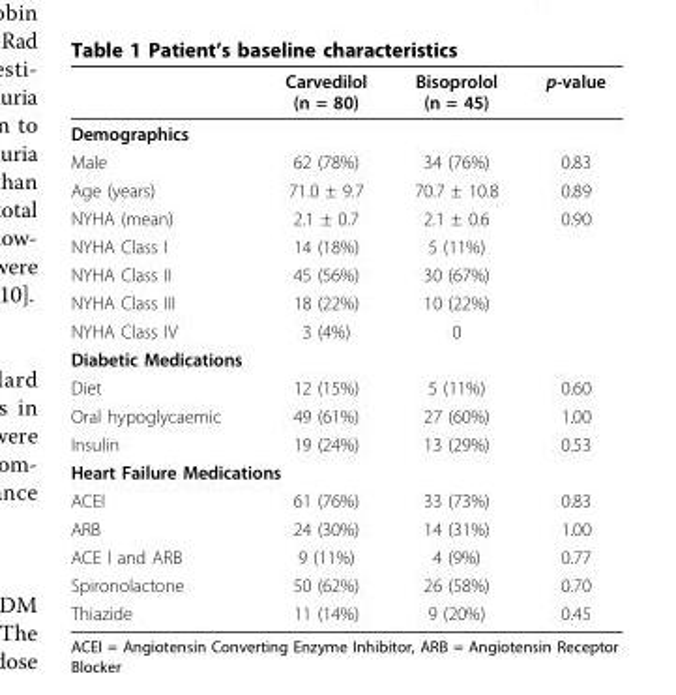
<table><thead><tr><td></td><td>Carvedilol (n = 80)</td><td>Bisoprolol (n = 45)</td><td>p-value</td></tr></thead><tbody><tr><td colspan="4">Demographics</td></tr><tr><td>Male</td><td>62 (78%)</td><td>34 (76%)</td><td>0.83</td></tr><tr><td>Age (years)</td><td>71.0 ± 9.7</td><td>70.7 ± 10.8</td><td>0.89</td></tr><tr><td>NYHA (mean)</td><td>2.1 ± 0.7</td><td>2.1 ± 0.6</td><td>0.90</td></tr><tr><td>NYHA Class I</td><td>14 (18%)</td><td>5 (11%)</td><td></td></tr><tr><td>NYHA Class II</td><td>45 (56%)</td><td>30 (67%)</td><td></td></tr><tr><td>NYHA Class III</td><td>18 (22%)</td><td>10 (22%)</td><td></td></tr><tr><td>NYHA Class IV</td><td>3 (4%)</td><td>0</td><td></td></tr><tr><td colspan="4">Diabetic Medications</td></tr><tr><td>Diet</td><td>12 (15%)</td><td>5 (11%)</td><td>0.60</td></tr><tr><td>Oral hypoglycaemic</td><td>49 (61%)</td><td>27 (60%)</td><td>1.00</td></tr><tr><td>Insulin</td><td>19 (24%)</td><td>13 (29%)</td><td>0.53</td></tr><tr><td colspan="4">Heart Failure Medications</td></tr><tr><td>ACEI</td><td>61 (76%)</td><td>33 (73%)</td><td>0.83</td></tr><tr><td>ARB</td><td>24 (30%)</td><td>14 (31%)</td><td>1.00</td></tr><tr><td>ACE I and ARB</td><td>9 (11%)</td><td>4 (9%)</td><td>0.77</td></tr><tr><td>Spironolactone</td><td>50 (62%)</td><td>26 (58%)</td><td>0.70</td></tr><tr><td>Thiazide</td><td>11 (14%)</td><td>9 (20%)</td><td>0.45</td></tr></tbody></table>